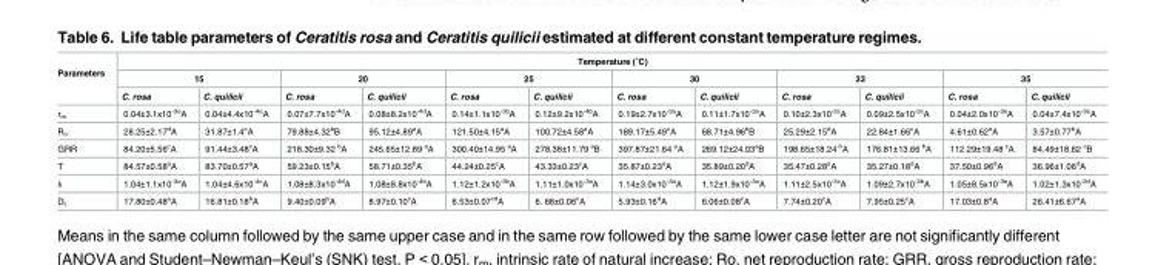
<table><thead><tr><td rowspan="3">Parameters</td><td colspan="12">Temperature (˚C)</td></tr><tr><td colspan="2">15</td><td colspan="2">20</td><td colspan="2">25</td><td colspan="2">30</td><td colspan="2">33</td><td colspan="2">35</td></tr><tr><td>C. rosa</td><td>C. quilicii</td><td>C. rosa</td><td>C. quilicii</td><td>C. rosa</td><td>C. quilicii</td><td>C. rosa</td><td>C. quilicii</td><td>C. rosa</td><td>C. quilicii</td><td>C. rosa</td><td>C. quilicii</td></tr></thead><tbody><tr><td>r<sub>m</sub></td><td>0.04±3.1x10<sup>-3e</sup>A</td><td>0.04±4.4x10<sup>-4e</sup>A</td><td>0.07±7.7x10<sup>-4d</sup>A</td><td>0.08±8.2x10<sup>-4d</sup>A</td><td>0.14±1.1x10<sup>-3b</sup>A</td><td>0.12±9.2x10<sup>-4b</sup>A</td><td>0.19±2.7x10<sup>-3a</sup>A</td><td>0.11±1.7x10<sup>-3a</sup>A</td><td>0.10±2.3x10<sup>-3c</sup>A</td><td>0.09±2.5x10<sup>-3c</sup>A</td><td>0.04±2.0x10<sup>-3e</sup>A</td><td>0.04±7.4x10<sup>-3e</sup>A</td></tr><tr><td>R<sub>o</sub></td><td>28.25±2.17<sup>d</sup>A</td><td>31.87±1.4<sup>c</sup>A</td><td>79.88±4.32<sup>b</sup>B</td><td>95.12±4.89<sup>a</sup>A</td><td>121.50±4.15<sup>a</sup>A</td><td>100.72±4.58<sup>a</sup>A</td><td>189.17±5.49<sup>c</sup>A</td><td>68.71±4.96<sup>b</sup>B</td><td>25.29±2.15<sup>d</sup>A</td><td>22.84±1.66<sup>c</sup>A</td><td>4.61±0.62<sup>e</sup>A</td><td>3.57±0.77<sup>b</sup>A</td></tr><tr><td>GRR</td><td>84.20±5.56<sup>c</sup>A</td><td>91.44±3.48<sup>c</sup>A</td><td>218.30±9.32 <sup>b</sup>A</td><td>245.65±12.89 <sup>a</sup>A</td><td>300.40±14.95 <sup>a</sup>A</td><td>278.38±11.79 <sup>a</sup>B</td><td>397.87±21.64 <sup>a</sup>A</td><td>269.12±24.03<sup>a</sup>B</td><td>198.65±18.24 <sup>b</sup>A</td><td>176.81±13.66 <sup>b</sup>A</td><td>112.29±19.48 <sup>c</sup>A</td><td>84.49±18.62 <sup>c</sup>B</td></tr><tr><td>T</td><td>84.57±0.58<sup>a</sup>A</td><td>83.70±0.57<sup>a</sup>A</td><td>59.23±0.15<sup>b</sup>A</td><td>58.71±0.35<sup>b</sup>A</td><td>44.24±0.25<sup>c</sup>A</td><td>43.33±0.23<sup>c</sup>A</td><td>35.87±0.23<sup>e</sup>A</td><td>35.89±0.20<sup>d</sup>A</td><td>35.47±0.28<sup>e</sup>A</td><td>35.27±0.18<sup>d</sup>A</td><td>37.50±0.96<sup>d</sup>A</td><td>36.96±1.06<sup>d</sup>A</td></tr><tr><td>λ</td><td>1.04±1.1x10<sup>-3e</sup>A</td><td>1.04±4.6x10<sup>-4c</sup>A</td><td>1.08±8.3x10<sup>-4d</sup>A</td><td>1.08±8.8x10<sup>-4b</sup>A</td><td>1.12±1.2x10<sup>-3b</sup>A</td><td>1.11±1.0x10<sup>-3a</sup>A</td><td>1.14±3.0x10<sup>-3a</sup>A</td><td>1.12±1.9x10<sup>-3a</sup>A</td><td>1.11±2.5x10<sup>-3c</sup>A</td><td>1.09±2.7x10<sup>-3b</sup>A</td><td>1.05±8.5x10<sup>-3e</sup>A</td><td>1.02±1.3x10<sup>-2d</sup>A</td></tr><tr><td>D<sub>t</sub></td><td>17.80±0.48<sup>a</sup>A</td><td>16.81±0.18<sup>b</sup>A</td><td>9.40±0.09<sup>b</sup>A</td><td>8.97±0.10<sup>c</sup>A</td><td>6.53±0.07<sup>cd</sup>A</td><td>6. 68±0.06<sup>c</sup>A</td><td>5.93±0.16<sup>d</sup>A</td><td>6.06±0.08<sup>c</sup>A</td><td>7.74±0.20<sup>c</sup>A</td><td>7.95±0.25<sup>c</sup>A</td><td>17.03±0.8<sup>a</sup>A</td><td>26.41±6.67<sup>a</sup>A</td></tr></tbody></table>